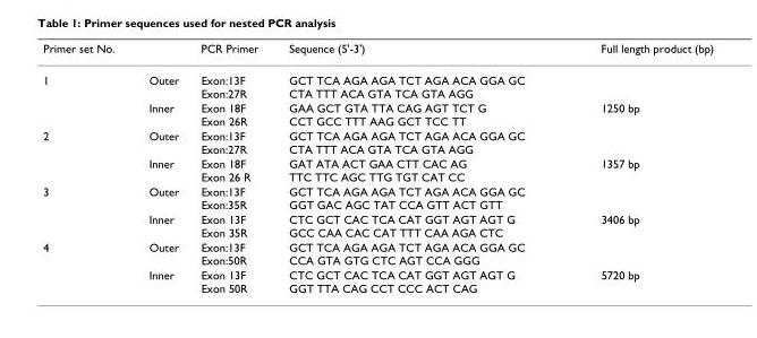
<table><thead><tr><td>Primer set No.</td><td></td><td>PCR Primer</td><td>Sequence (5&#x27;-3&#x27;)</td><td>Full length product (bp)</td></tr></thead><tbody><tr><td rowspan="2">1</td><td>Outer</td><td>Exon:13F Exon:27R</td><td>GCT TCA AGA AGA TCT AGA ACA GGA GC CTA TTT ACA GTA TCA GTA AGG</td><td></td></tr><tr><td>Inner</td><td>Exon 18F Exon 26R</td><td>GAA GCT GTA TTA CAG AGT TCT G CCT GCC TTT AAG GCT TCC TT</td><td>1250 bp</td></tr><tr><td rowspan="2">2</td><td>Outer</td><td>Exon:13F Exon:27R</td><td>GCT TCA AGA AGA TCT AGA ACA GGA GC CTA TTT ACA GTA TCA GTA AGG</td><td></td></tr><tr><td>Inner</td><td>Exon 18F Exon 26 R</td><td>GAT ATA ACT GAA CTT CAC AG TTC TTC AGC TTG TGT CAT CC</td><td>1357 bp</td></tr><tr><td rowspan="2">3</td><td>Outer</td><td>Exon:13F Exon:35R</td><td>GCT TCA AGA AGA TCT AGA ACA GGA GC GGT GAC AGC TAT CCA GTT ACT GTT</td><td></td></tr><tr><td>Inner</td><td>Exon 13F Exon 35R</td><td>CTC GCT CAC TCA CAT GGT AGT AGT G GCC CAA CAC CAT TTT CAA AGA CTC</td><td>3406 bp</td></tr><tr><td rowspan="2">4</td><td>Outer</td><td>Exon:13F Exon:50R</td><td>GCT TCA AGA AGA TCT AGA ACA GGA GC CCA GTA GTG CTC AGT CCA GGG</td><td></td></tr><tr><td>Inner</td><td>Exon 13F Exon 50R</td><td>CTC GCT CAC TCA CAT GGT AGT AGT G GGT TTA CAG CCT CCC ACT CAG</td><td>5720 bp</td></tr></tbody></table>